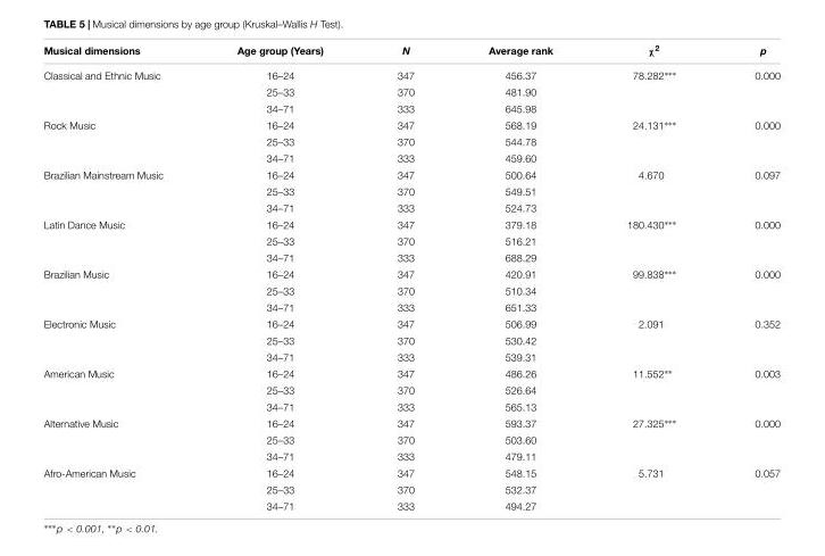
<table><thead><tr><td>Musical dimensions</td><td>Age group (Years)</td><td>N</td><td>Average rank</td><td>χ<sup>2</sup></td><td>p</td></tr></thead><tbody><tr><td rowspan="3">Classical and Ethnic Music</td><td>16–24</td><td>347</td><td>456.37</td><td>78.282∗∗∗</td><td>0.000</td></tr><tr><td>25–33</td><td>370</td><td>481.90</td><td></td><td></td></tr><tr><td>34–71</td><td>333</td><td>645.98</td><td></td><td></td></tr><tr><td rowspan="3">Rock Music</td><td>16–24</td><td>347</td><td>568.19</td><td>24.131∗∗∗</td><td>0.000</td></tr><tr><td>25–33</td><td>370</td><td>544.78</td><td></td><td></td></tr><tr><td>34–71</td><td>333</td><td>459.60</td><td></td><td></td></tr><tr><td rowspan="3">Brazilian Mainstream Music</td><td>16–24</td><td>347</td><td>500.64</td><td>4.670</td><td>0.097</td></tr><tr><td>25–33</td><td>370</td><td>549.51</td><td></td><td></td></tr><tr><td>34–71</td><td>333</td><td>524.73</td><td></td><td></td></tr><tr><td rowspan="3">Latin Dance Music</td><td>16–24</td><td>347</td><td>379.18</td><td>180.430∗∗∗</td><td>0.000</td></tr><tr><td>25–33</td><td>370</td><td>516.21</td><td></td><td></td></tr><tr><td>34–71</td><td>333</td><td>688.29</td><td></td><td></td></tr><tr><td rowspan="3">Brazilian Music</td><td>16–24</td><td>347</td><td>420.91</td><td>99.838∗∗∗</td><td>0.000</td></tr><tr><td>25–33</td><td>370</td><td>510.34</td><td></td><td></td></tr><tr><td>34–71</td><td>333</td><td>651.33</td><td></td><td></td></tr><tr><td rowspan="3">Electronic Music</td><td>16–24</td><td>347</td><td>506.99</td><td>2.091</td><td>0.352</td></tr><tr><td>25–33</td><td>370</td><td>530.42</td><td></td><td></td></tr><tr><td>34–71</td><td>333</td><td>539.31</td><td></td><td></td></tr><tr><td rowspan="3">American Music</td><td>16–24</td><td>347</td><td>486.26</td><td>11.552∗∗</td><td>0.003</td></tr><tr><td>25–33</td><td>370</td><td>526.64</td><td></td><td></td></tr><tr><td>34–71</td><td>333</td><td>565.13</td><td></td><td></td></tr><tr><td rowspan="3">Alternative Music</td><td>16–24</td><td>347</td><td>593.37</td><td>27.325∗∗∗</td><td>0.000</td></tr><tr><td>25–33</td><td>370</td><td>503.60</td><td></td><td></td></tr><tr><td>34–71</td><td>333</td><td>479.11</td><td></td><td></td></tr><tr><td rowspan="3">Afro-American Music</td><td>16–24</td><td>347</td><td>548.15</td><td>5.731</td><td>0.057</td></tr><tr><td>25–33</td><td>370</td><td>532.37</td><td></td><td></td></tr><tr><td>34–71</td><td>333</td><td>494.27</td><td></td><td></td></tr></tbody></table>